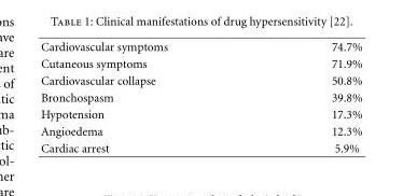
<table><tbody><tr><td>Cardiovascular symptoms</td><td>74.7%</td></tr><tr><td>Cutaneous symptoms</td><td>71.9%</td></tr><tr><td>Cardiovascular collapse</td><td>50.8%</td></tr><tr><td>Bronchospasm</td><td>39.8%</td></tr><tr><td>Hypotension</td><td>17.3%</td></tr><tr><td>Angioedema</td><td>12.3%</td></tr><tr><td>Cardiac arrest</td><td>5.9%</td></tr></tbody></table>